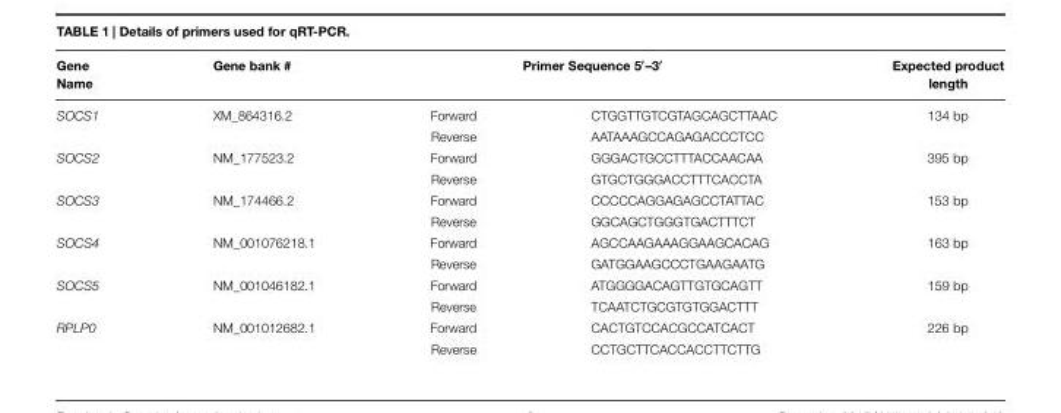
<table><thead><tr><td rowspan="2">Gene Name SOCS1</td><td rowspan="2">Gene bank # XM_864316.2</td><td colspan="2">Primer Sequence 5′–3′</td><td rowspan="2">Expected product length 134 bp</td></tr><tr><td>Forward</td><td>CTGGTTGTCGTAGCAGCTTAAC</td></tr></thead><tbody><tr><td></td><td></td><td>Reverse</td><td>AATAAAGCCAGAGACCCTCC</td><td></td></tr><tr><td rowspan="2">SOCS2</td><td>NM_177523.2</td><td>Forward</td><td>GGGACTGCCTTTACCAACAA</td><td>395 bp</td></tr><tr><td></td><td>Reverse</td><td>GTGCTGGGACCTTTCACCTA</td><td></td></tr><tr><td rowspan="2">SOCS3</td><td>NM_174466.2</td><td>Forward</td><td>CCCCCAGGAGAGCCTATTAC</td><td>153 bp</td></tr><tr><td></td><td>Reverse</td><td>GGCAGCTGGGTGACTTTCT</td><td></td></tr><tr><td rowspan="2">SOCS4</td><td>NM_001076218.1</td><td>Forward</td><td>AGCCAAGAAAGGAAGCACAG</td><td>163 bp</td></tr><tr><td></td><td>Reverse</td><td>GATGGAAGCCCTGAAGAATG</td><td></td></tr><tr><td rowspan="2">SOCS5</td><td>NM_001046182.1</td><td>Forward</td><td>ATGGGGACAGTTGTGCAGTT</td><td>159 bp</td></tr><tr><td></td><td>Reverse</td><td>TCAATCTGCGTGTGGACTTT</td><td></td></tr><tr><td rowspan="2">RPLP0</td><td>NM_001012682.1</td><td>Forward</td><td>CACTGTCCACGCCATCACT</td><td>226 bp</td></tr><tr><td></td><td>Reverse</td><td>CCTGCTTCACCACCTTCTTG</td><td></td></tr></tbody></table>